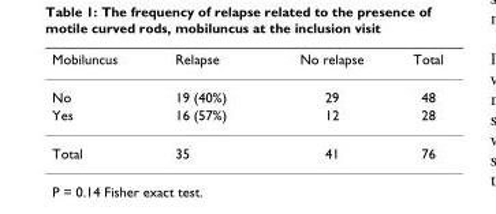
<table><thead><tr><td>Mobiluncus</td><td>Relapse</td><td>No relapse</td><td>Total</td></tr></thead><tbody><tr><td>No</td><td>19 (40%)</td><td>29</td><td>48</td></tr><tr><td>Yes</td><td>16 (57%)</td><td>12</td><td>28</td></tr><tr><td>Total</td><td>35</td><td>41</td><td>76</td></tr></tbody></table>